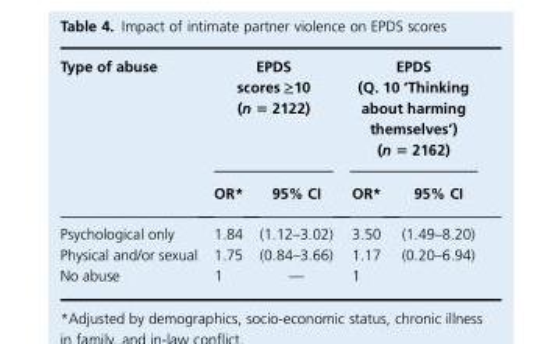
<table><thead><tr><td rowspan="2">Type of abuse</td><td colspan="2">EPDS scores ‚10 (n 5 2122)</td><td colspan="2">EPDS (Q. 10 ‘Thinking about harming themselves’) (n = 2162)</td></tr><tr><td>OR*</td><td>95% CI</td><td>OR*</td><td>95% CI</td></tr></thead><tbody><tr><td>Psychological only</td><td>1.84</td><td>(1.12–3.02)</td><td>3.50</td><td>(1.49–8.20)</td></tr><tr><td>Physical and/or sexual</td><td>1.75</td><td>(0.84–3.66)</td><td>1.17</td><td>(0.20–6.94)</td></tr><tr><td>No abuse</td><td>1</td><td>—</td><td>1</td><td></td></tr></tbody></table>